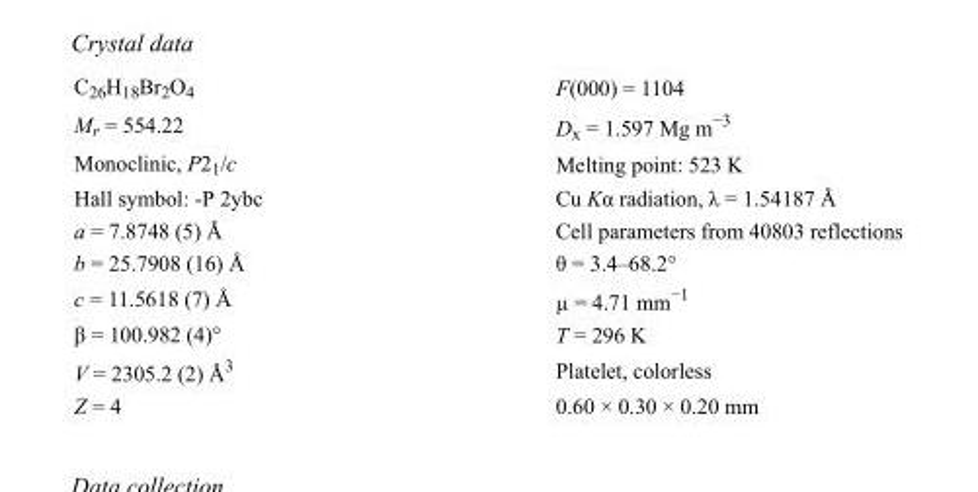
<table><tbody><tr><td>C<sub>26</sub>H<sub>18</sub>Br<sub>2</sub>O<sub>4</sub></td><td>F(000) = 1104</td></tr><tr><td>M<sub>r</sub> = 554.22</td><td>D<sub>x</sub> = 1.597 Mg m<sup>−3</sup></td></tr><tr><td>Monoclinic, P2<sub>1</sub>/c</td><td>Melting point: 523 K</td></tr><tr><td>Hall symbol: -P 2ybc</td><td>Cu Kα radiation, λ = 1.54187 Å</td></tr><tr><td>a = 7.8748 (5) Å</td><td>Cell parameters from 40803 reflections</td></tr><tr><td>b = 25.7908 (16) Å</td><td>θ = 3.4–68.2°</td></tr><tr><td>c = 11.5618 (7) Å</td><td>µ = 4.71 mm<sup>−1</sup></td></tr><tr><td>β = 100.982 (4)°</td><td>T = 296 K</td></tr><tr><td>V = 2305.2 (2) Å<sup>3</sup></td><td>Platelet, colorless</td></tr><tr><td>Z = 4</td><td>0.60 × 0.30 × 0.20 mm</td></tr></tbody></table>